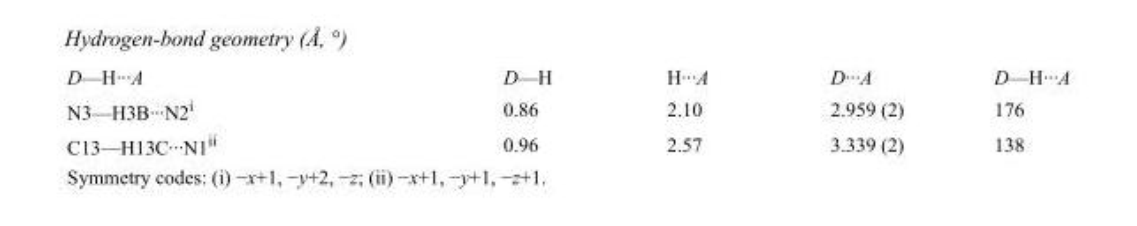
<table><tbody><tr><td>D—H···A</td><td>D—H</td><td>H···A</td><td>D···A</td><td>D—H···A</td></tr><tr><td>N3—H3B···N2<sup>i</sup></td><td>0.86</td><td>2.10</td><td>2.959 (2)</td><td>176</td></tr><tr><td>C13—H13C···N1<sup>ii</sup></td><td>0.96</td><td>2.57</td><td>3.339 (2)</td><td>138</td></tr></tbody></table>